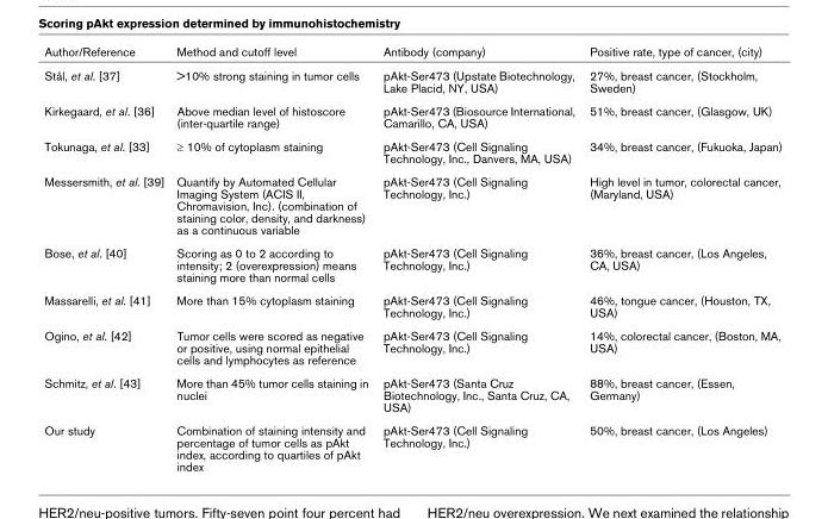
<table><thead><tr><td>Author/Reference</td><td>Method and cutoff level</td><td>Antibody (company)</td><td>Positive rate, type of cancer, (city)</td></tr></thead><tbody><tr><td>Stål, et al. [37]</td><td>&gt;10% strong staining in tumor cells</td><td>pAkt-Ser473 (Upstate Biotechnology, Lake Placid, NY, USA)</td><td>27%, breast cancer, (Stockholm, Sweden)</td></tr><tr><td>Kirkegaard, et al. [36]</td><td>Above median level of histoscore (inter-quartile range)</td><td>pAkt-Ser473 (Biosource International, Camarillo, CA, USA)</td><td>51%, breast cancer, (Glasgow, UK)</td></tr><tr><td>Tokunaga, et al. [33]</td><td>≥ 10% of cytoplasm staining</td><td>pAkt-Ser473 (Cell Signaling Technology, Inc., Danvers, MA, USA)</td><td>34%, breast cancer, (Fukuoka, Japan)</td></tr><tr><td>Messersmith, et al. [39]</td><td>Quantify by Automated Cellular Imaging System (ACIS II, Chromavision, Inc). (combination of staining color, density, and darkness) as a continuous variable</td><td>pAkt-Ser473 (Cell Signaling Technology, Inc.)</td><td>High level in tumor, colorectal cancer, (Maryland, USA)</td></tr><tr><td>Bose, et al. [40]</td><td>Scoring as 0 to 2 according to intensity; 2 (overexpression) means staining more than normal cells</td><td>pAkt-Ser473 (Cell Signaling Technology, Inc.)</td><td>36%, breast cancer, (Los Angeles, CA, USA)</td></tr><tr><td>Massarelli, et al. [41]</td><td>More than 15% cytoplasm staining</td><td>pAkt-Ser473 (Cell Signaling Technology, Inc.)</td><td>46%, tongue cancer, (Houston, TX, USA)</td></tr><tr><td>Ogino, et al. [42]</td><td>Tumor cells were scored as negative or positive, using normal epithelial cells and lymphocytes as reference</td><td>pAkt-Ser473 (Cell Signaling Technology, Inc.)</td><td>14%, colorectal cancer, (Boston, MA, USA)</td></tr><tr><td>Schmitz, et al. [43]</td><td>More than 45% tumor cells staining in nuclei</td><td>pAkt-Ser473 (Santa Cruz Biotechnology, Inc., Santa Cruz, CA, USA)</td><td>88%, breast cancer, (Essen, Germany)</td></tr><tr><td>Our study</td><td>Combination of staining intensity and percentage of tumor cells as pAkt index, according to quartiles of pAkt index</td><td>pAkt-Ser473 (Cell Signaling Technology, Inc.)</td><td>50%, breast cancer, (Los Angeles)</td></tr></tbody></table>